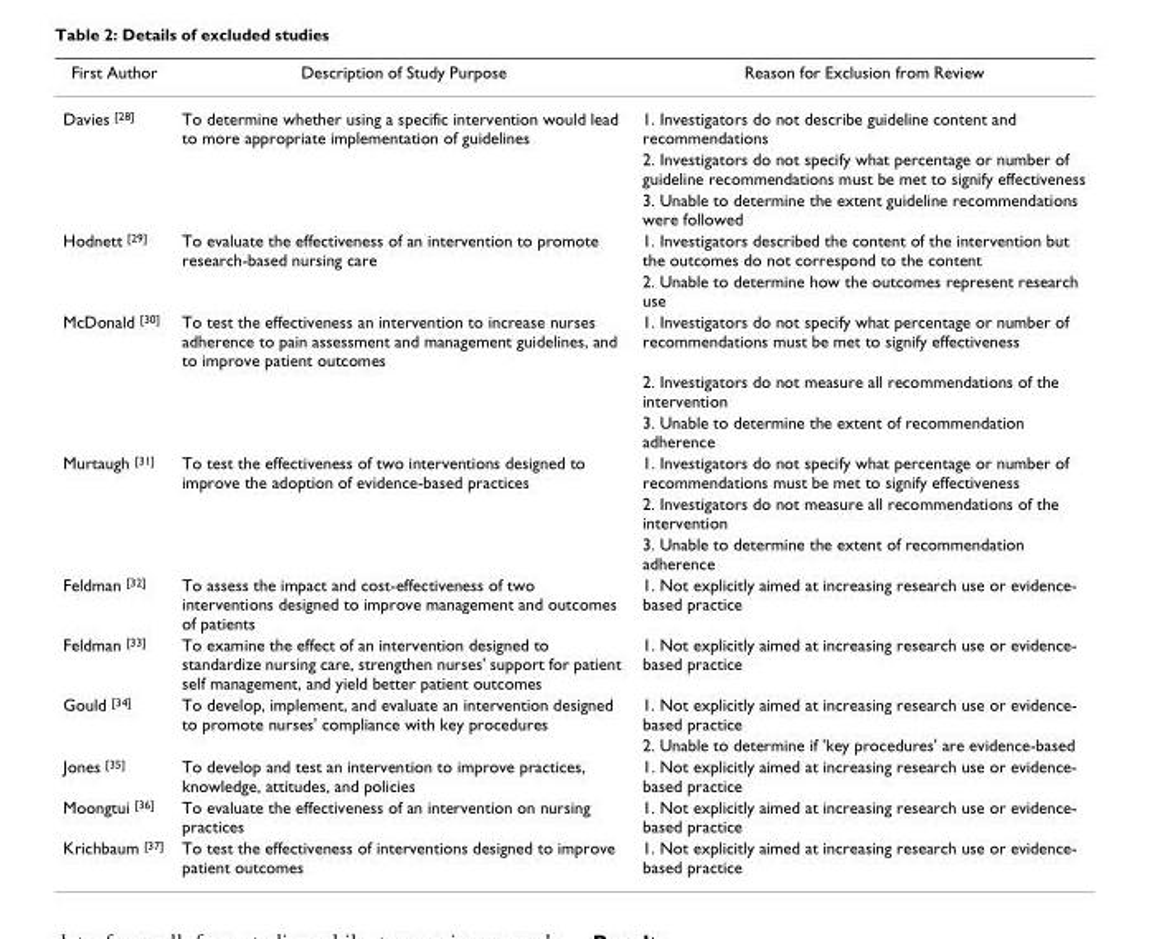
<table><thead><tr><td>First Author</td><td>Description of Study Purpose</td><td>Reason for Exclusion from Review</td></tr></thead><tbody><tr><td rowspan="3">Davies <sup>[28]</sup></td><td>To determine whether using a specific intervention would lead to more appropriate implementation of guidelines</td><td>1. Investigators do not describe guideline content and recommendations</td></tr><tr><td></td><td>2. Investigators do not specify what percentage or number of guideline recommendations must be met to signify effectiveness</td></tr><tr><td></td><td>3. Unable to determine the extent guideline recommendations were followed</td></tr><tr><td rowspan="2">Hodnett <sup>[29]</sup></td><td>To evaluate the effectiveness of an intervention to promote research-based nursing care</td><td>1. Investigators described the content of the intervention but the outcomes do not correspond to the content</td></tr><tr><td></td><td>2. Unable to determine how the outcomes represent research use</td></tr><tr><td rowspan="3">McDonald <sup>[30]</sup></td><td>To test the effectiveness an intervention to increase nurses adherence to pain assessment and management guidelines, and to improve patient outcomes</td><td>1. Investigators do not specify what percentage or number of recommendations must be met to signify effectiveness</td></tr><tr><td></td><td>2. Investigators do not measure all recommendations of the intervention</td></tr><tr><td></td><td>3. Unable to determine the extent of recommendation adherence</td></tr><tr><td rowspan="3">Murtaugh <sup>[31]</sup></td><td>To test the effectiveness of two interventions designed to improve the adoption of evidence-based practices</td><td>1. Investigators do not specify what percentage or number of recommendations must be met to signify effectiveness</td></tr><tr><td></td><td>2. Investigators do not measure all recommendations of the intervention</td></tr><tr><td></td><td>3. Unable to determine the extent of recommendation adherence</td></tr><tr><td>Feldman <sup>[32]</sup></td><td>To assess the impact and cost-effectiveness of two interventions designed to improve management and outcomes of patients</td><td>1. Not explicitly aimed at increasing research use or evidence- based practice</td></tr><tr><td>Feldman <sup>[33]</sup></td><td>To examine the effect of an intervention designed to standardize nursing care, strengthen nurses&#x27; support for patient self management, and yield better patient outcomes</td><td>1. Not explicitly aimed at increasing research use or evidence- based practice</td></tr><tr><td rowspan="2">Gould <sup>[34]</sup></td><td>To develop, implement, and evaluate an intervention designed to promote nurses&#x27; compliance with key procedures</td><td>1. Not explicitly aimed at increasing research use or evidence- based practice</td></tr><tr><td></td><td>2. Unable to determine if &#x27;key procedures&#x27; are evidence-based</td></tr><tr><td>Jones <sup>[35]</sup></td><td>To develop and test an intervention to improve practices, knowledge, attitudes, and policies</td><td>1. Not explicitly aimed at increasing research use or evidence- based practice</td></tr><tr><td>Moongtui <sup>[36]</sup></td><td>To evaluate the effectiveness of an intervention on nursing practices</td><td>1. Not explicitly aimed at increasing research use or evidence- based practice</td></tr><tr><td>Krichbaum <sup>[37]</sup></td><td>To test the effectiveness of interventions designed to improve patient outcomes</td><td>1. Not explicitly aimed at increasing research use or evidence- based practice</td></tr></tbody></table>